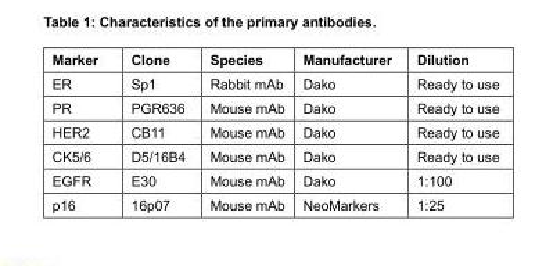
<table><thead><tr><td>Marker</td><td>Clone</td><td>Species</td><td>Manufacturer</td><td>Dilution</td></tr></thead><tbody><tr><td>ER</td><td>Sp1</td><td>Rabbit mAb</td><td>Dako</td><td>Ready to use</td></tr><tr><td>PR</td><td>PGR636</td><td>Mouse mAb</td><td>Dako</td><td>Ready to use</td></tr><tr><td>HER2</td><td>CB11</td><td>Mouse mAb</td><td>Dako</td><td>Ready to use</td></tr><tr><td>CK5/6</td><td>D5/16B4</td><td>Mouse mAb</td><td>Dako</td><td>Ready to use</td></tr><tr><td>EGFR</td><td>E30</td><td>Mouse mAb</td><td>Dako</td><td>1:100</td></tr><tr><td>p16</td><td>16p07</td><td>Mouse mAb</td><td>NeoMarkers</td><td>1:25</td></tr></tbody></table>